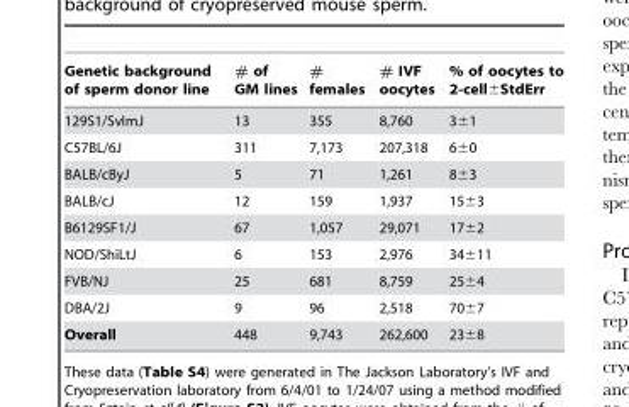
<table><thead><tr><td>Genetic background of sperm donor line</td><td># of GM lines</td><td># females</td><td># IVF oocytes</td><td>% of oocytes to 2-cell±StdErr</td></tr></thead><tbody><tr><td>129S1/SvImJ</td><td>13</td><td>355</td><td>8,760</td><td>3±1</td></tr><tr><td>C57BL/6J</td><td>311</td><td>7,173</td><td>207,318</td><td>6±0</td></tr><tr><td>BALB/cByJ</td><td>5</td><td>71</td><td>1,261</td><td>8±3</td></tr><tr><td>BALB/cJ</td><td>12</td><td>159</td><td>1,937</td><td>15±3</td></tr><tr><td>B6129SF1/J</td><td>67</td><td>1,057</td><td>29,071</td><td>17±2</td></tr><tr><td>NOD/ShiLtJ</td><td>6</td><td>153</td><td>2,976</td><td>34±11</td></tr><tr><td>FVB/NJ</td><td>25</td><td>681</td><td>8,759</td><td>25±4</td></tr><tr><td>DBA/2J</td><td>9</td><td>96</td><td>2,518</td><td>70±7</td></tr><tr><td>Overall</td><td>448</td><td>9,743</td><td>262,600</td><td>23±8</td></tr></tbody></table>